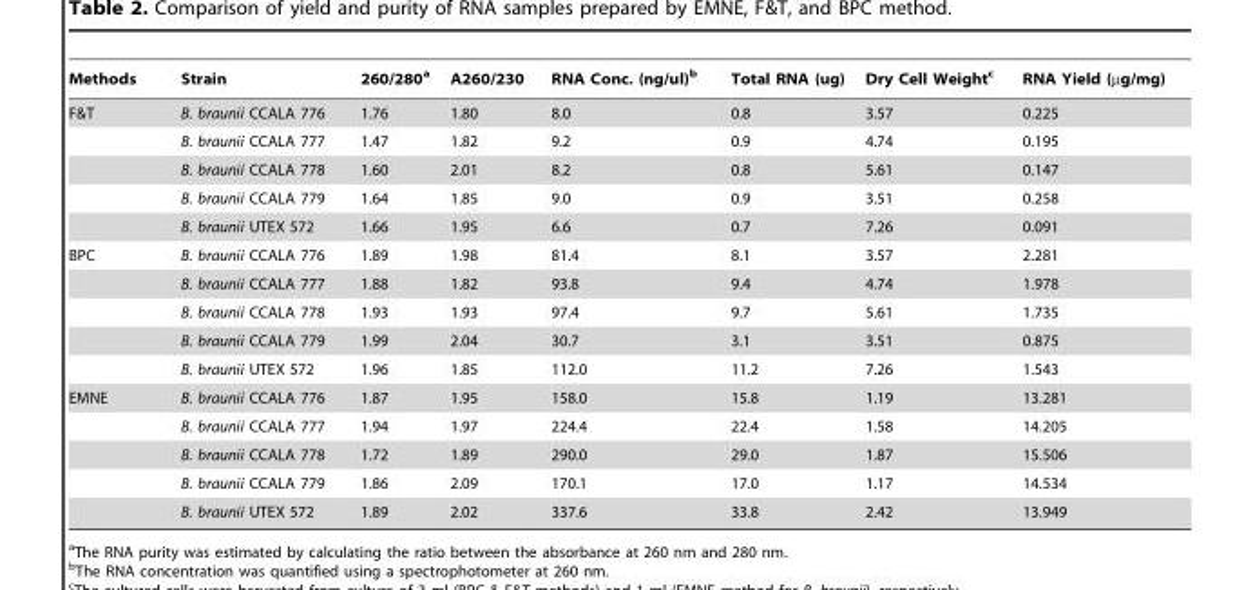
<table><thead><tr><td>Methods</td><td>Strain</td><td>260/280<sup>a</sup></td><td>A260/230</td><td>RNA Conc. (ng/ul)<sup>b</sup></td><td>Total RNA (ug)</td><td>Dry Cell Weight<sup>c</sup></td><td>RNA Yield (µg/mg)</td></tr></thead><tbody><tr><td rowspan="5">F&amp;T</td><td>B. braunii CCALA 776</td><td>1.76</td><td>1.80</td><td>8.0</td><td>0.8</td><td>3.57</td><td>0.225</td></tr><tr><td>B. braunii CCALA 777</td><td>1.47</td><td>1.82</td><td>9.2</td><td>0.9</td><td>4.74</td><td>0.195</td></tr><tr><td>B. braunii CCALA 778</td><td>1.60</td><td>2.01</td><td>8.2</td><td>0.8</td><td>5.61</td><td>0.147</td></tr><tr><td>B. braunii CCALA 779</td><td>1.64</td><td>1.85</td><td>9.0</td><td>0.9</td><td>3.51</td><td>0.258</td></tr><tr><td>B. braunii UTEX 572</td><td>1.66</td><td>1.95</td><td>6.6</td><td>0.7</td><td>7.26</td><td>0.091</td></tr><tr><td rowspan="5">BPC</td><td>B. braunii CCALA 776</td><td>1.89</td><td>1.98</td><td>81.4</td><td>8.1</td><td>3.57</td><td>2.281</td></tr><tr><td>B. braunii CCALA 777</td><td>1.88</td><td>1.82</td><td>93.8</td><td>9.4</td><td>4.74</td><td>1.978</td></tr><tr><td>B. braunii CCALA 778</td><td>1.93</td><td>1.93</td><td>97.4</td><td>9.7</td><td>5.61</td><td>1.735</td></tr><tr><td>B. braunii CCALA 779</td><td>1.99</td><td>2.04</td><td>30.7</td><td>3.1</td><td>3.51</td><td>0.875</td></tr><tr><td>B. braunii UTEX 572</td><td>1.96</td><td>1.85</td><td>112.0</td><td>11.2</td><td>7.26</td><td>1.543</td></tr><tr><td rowspan="5">EMNE</td><td>B. braunii CCALA 776</td><td>1.87</td><td>1.95</td><td>158.0</td><td>15.8</td><td>1.19</td><td>13.281</td></tr><tr><td>B. braunii CCALA 777</td><td>1.94</td><td>1.97</td><td>224.4</td><td>22.4</td><td>1.58</td><td>14.205</td></tr><tr><td>B. braunii CCALA 778</td><td>1.72</td><td>1.89</td><td>290.0</td><td>29.0</td><td>1.87</td><td>15.506</td></tr><tr><td>B. braunii CCALA 779</td><td>1.86</td><td>2.09</td><td>170.1</td><td>17.0</td><td>1.17</td><td>14.534</td></tr><tr><td>B. braunii UTEX 572</td><td>1.89</td><td>2.02</td><td>337.6</td><td>33.8</td><td>2.42</td><td>13.949</td></tr></tbody></table>